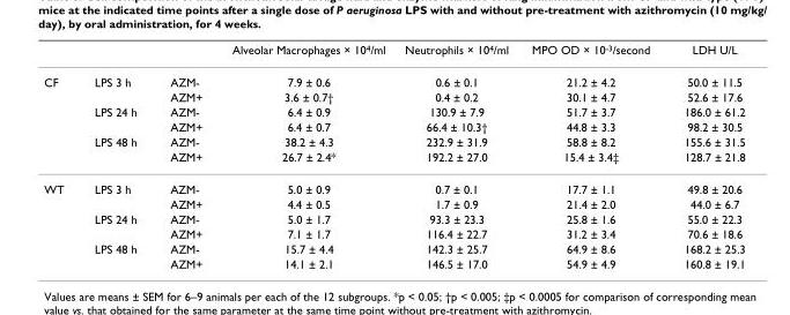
<table><thead><tr><td></td><td></td><td></td><td>Alveolar Macrophages × 10<sup>4</sup>/ml</td><td>Neutrophils × 10<sup>4</sup>/ml</td><td>MPO OD × 10<sup>-3</sup>/second</td><td>LDH U/L</td></tr></thead><tbody><tr><td rowspan="6">CF</td><td>LPS 3 h</td><td>AZM-</td><td>7.9 ± 0.6</td><td>0.6 ± 0.1</td><td>21.2 ± 4.2</td><td>50.0 ± 11.5</td></tr><tr><td></td><td>AZM+</td><td>3.6 ± 0.7†</td><td>0.4 ± 0.2</td><td>30.1 ± 4.7</td><td>52.6 ± 17.6</td></tr><tr><td>LPS 24 h</td><td>AZM-</td><td>6.4 ± 0.9</td><td>130.9 ± 7.9</td><td>51.7 ± 3.7</td><td>186.0 ± 61.2</td></tr><tr><td></td><td>AZM+</td><td>6.4 ± 0.7</td><td>66.4 ± 10.3†</td><td>44.8 ± 3.3</td><td>98.2 ± 30.5</td></tr><tr><td>LPS 48 h</td><td>AZM-</td><td>38.2 ± 4.3</td><td>232.9 ± 31.9</td><td>58.8 ± 8.2</td><td>155.6 ± 31.5</td></tr><tr><td></td><td>AZM+</td><td>26.7 ± 2.4*</td><td>192.2 ± 27.0</td><td>15.4 ± 3.4‡</td><td>128.7 ± 21.8</td></tr><tr><td rowspan="6">WT</td><td>LPS 3 h</td><td>AZM-</td><td>5.0 ± 0.9</td><td>0.7 ± 0.1</td><td>17.7 ± 1.1</td><td>49.8 ± 20.6</td></tr><tr><td></td><td>AZM+</td><td>4.4 ± 0.5</td><td>1.7 ± 0.9</td><td>21.4 ± 2.0</td><td>44.0 ± 6.7</td></tr><tr><td>LPS 24 h</td><td>AZM-</td><td>5.0 ± 1.7</td><td>93.3 ± 23.3</td><td>25.8 ± 1.6</td><td>55.0 ± 22.3</td></tr><tr><td></td><td>AZM+</td><td>7.1 ± 1.7</td><td>116.4 ± 22.7</td><td>31.2 ± 3.4</td><td>70.6 ± 18.6</td></tr><tr><td>LPS 48 h</td><td>AZM-</td><td>15.7 ± 4.4</td><td>142.3 ± 25.7</td><td>64.9 ± 8.6</td><td>168.2 ± 25.3</td></tr><tr><td></td><td>AZM+</td><td>14.1 ± 2.1</td><td>146.5 ± 17.0</td><td>54.9 ± 4.9</td><td>160.8 ± 19.1</td></tr></tbody></table>